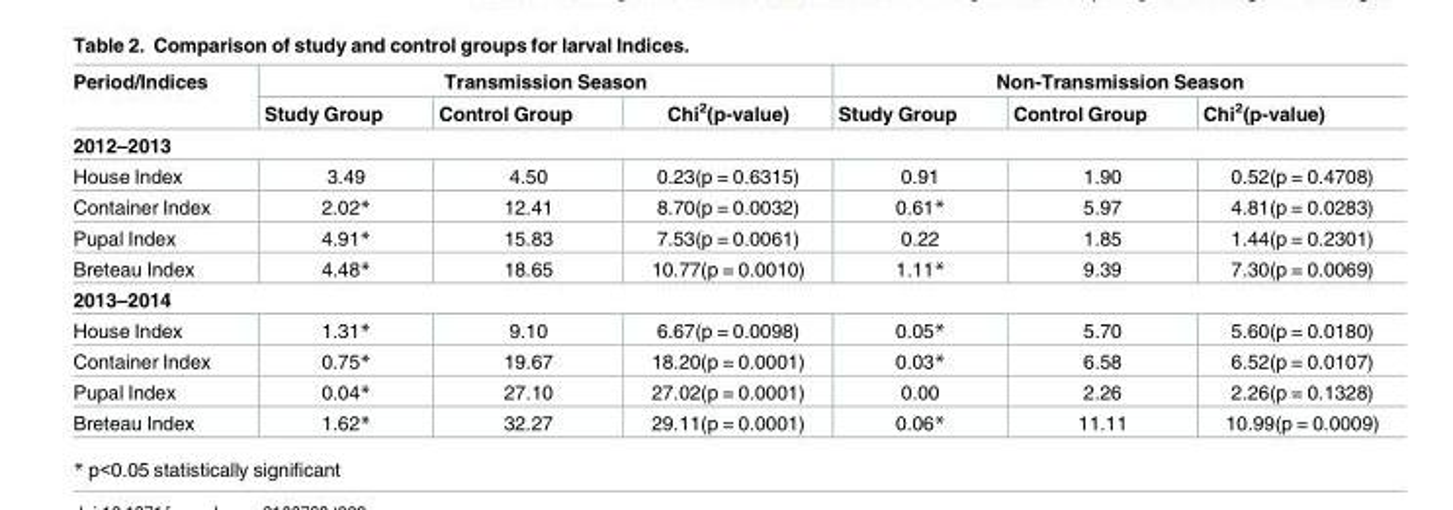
<table><thead><tr><td rowspan="2">Period/Indices</td><td colspan="3">Transmission Season</td><td colspan="3">Non-Transmission Season</td></tr><tr><td>Study Group</td><td>Control Group</td><td>Chi<sup>2</sup>(p-value)</td><td>Study Group</td><td>Control Group</td><td>Chi<sup>2</sup>(p-value)</td></tr></thead><tbody><tr><td colspan="7">2012–2013</td></tr><tr><td>House Index</td><td>3.49</td><td>4.50</td><td>0.23(p = 0.6315)</td><td>0.91</td><td>1.90</td><td>0.52(p = 0.4708)</td></tr><tr><td>Container Index</td><td>2.02*</td><td>12.41</td><td>8.70(p = 0.0032)</td><td>0.61*</td><td>5.97</td><td>4.81(p = 0.0283)</td></tr><tr><td>Pupal Index</td><td>4.91*</td><td>15.83</td><td>7.53(p = 0.0061)</td><td>0.22</td><td>1.85</td><td>1.44(p = 0.2301)</td></tr><tr><td>Breteau Index</td><td>4.48*</td><td>18.65</td><td>10.77(p = 0.0010)</td><td>1.11*</td><td>9.39</td><td>7.30(p = 0.0069)</td></tr><tr><td colspan="7">2013–2014</td></tr><tr><td>House Index</td><td>1.31*</td><td>9.10</td><td>6.67(p = 0.0098)</td><td>0.05*</td><td>5.70</td><td>5.60(p = 0.0180)</td></tr><tr><td>Container Index</td><td>0.75*</td><td>19.67</td><td>18.20(p = 0.0001)</td><td>0.03*</td><td>6.58</td><td>6.52(p = 0.0107)</td></tr><tr><td>Pupal Index</td><td>0.04*</td><td>27.10</td><td>27.02(p = 0.0001)</td><td>0.00</td><td>2.26</td><td>2.26(p = 0.1328)</td></tr><tr><td>Breteau Index</td><td>1.62*</td><td>32.27</td><td>29.11(p = 0.0001)</td><td>0.06*</td><td>11.11</td><td>10.99(p = 0.0009)</td></tr></tbody></table>